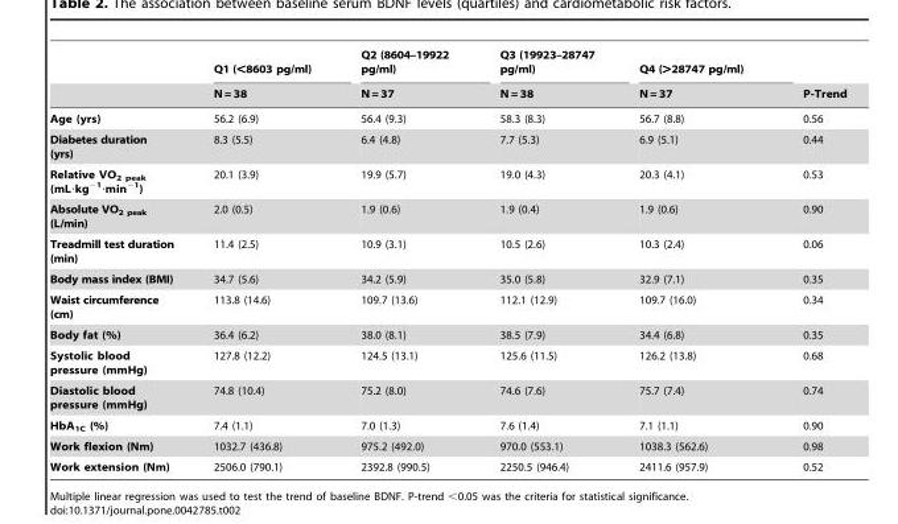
<table><thead><tr><td rowspan="2"></td><td rowspan="2">Q1 (&lt;8603 pg/ml) N = 38</td><td rowspan="2">Q2 (8604–19922 pg/ml) N = 37</td><td rowspan="2">Q3 (19923–28747 pg/ml) N = 38</td><td rowspan="2">Q4 (&gt;28747 pg/ml) N = 37</td><td rowspan="2">P-Trend</td></tr><tr></tr></thead><tbody><tr><td>Age (yrs)</td><td>56.2 (6.9)</td><td>56.4 (9.3)</td><td>58.3 (8.3)</td><td>56.7 (8.8)</td><td>0.56</td></tr><tr><td>Diabetes duration (yrs)</td><td>8.3 (5.5)</td><td>6.4 (4.8)</td><td>7.7 (5.3)</td><td>6.9 (5.1)</td><td>0.44</td></tr><tr><td>Relative VO<sub>2 peak</sub> (mL·kg<sup>−1</sup>·min<sup>−1</sup>)</td><td>20.1 (3.9)</td><td>19.9 (5.7)</td><td>19.0 (4.3)</td><td>20.3 (4.1)</td><td>0.53</td></tr><tr><td>Absolute VO<sub>2 peak</sub> (L/min)</td><td>2.0 (0.5)</td><td>1.9 (0.6)</td><td>1.9 (0.4)</td><td>1.9 (0.6)</td><td>0.90</td></tr><tr><td>Treadmill test duration (min)</td><td>11.4 (2.5)</td><td>10.9 (3.1)</td><td>10.5 (2.6)</td><td>10.3 (2.4)</td><td>0.06</td></tr><tr><td>Body mass index (BMI)</td><td>34.7 (5.6)</td><td>34.2 (5.9)</td><td>35.0 (5.8)</td><td>32.9 (7.1)</td><td>0.35</td></tr><tr><td>Waist circumference (cm)</td><td>113.8 (14.6)</td><td>109.7 (13.6)</td><td>112.1 (12.9)</td><td>109.7 (16.0)</td><td>0.34</td></tr><tr><td>Body fat (%)</td><td>36.4 (6.2)</td><td>38.0 (8.1)</td><td>38.5 (7.9)</td><td>34.4 (6.8)</td><td>0.35</td></tr><tr><td>Systolic blood pressure (mmHg)</td><td>127.8 (12.2)</td><td>124.5 (13.1)</td><td>125.6 (11.5)</td><td>126.2 (13.8)</td><td>0.68</td></tr><tr><td>Diastolic blood pressure (mmHg)</td><td>74.8 (10.4)</td><td>75.2 (8.0)</td><td>74.6 (7.6)</td><td>75.7 (7.4)</td><td>0.74</td></tr><tr><td>HbA<sub>1C</sub> (%)</td><td>7.4 (1.1)</td><td>7.0 (1.3)</td><td>7.6 (1.4)</td><td>7.1 (1.1)</td><td>0.90</td></tr><tr><td>Work flexion (Nm)</td><td>1032.7 (436.8)</td><td>975.2 (492.0)</td><td>970.0 (553.1)</td><td>1038.3 (562.6)</td><td>0.98</td></tr><tr><td>Work extension (Nm)</td><td>2506.0 (790.1)</td><td>2392.8 (990.5)</td><td>2250.5 (946.4)</td><td>2411.6 (957.9)</td><td>0.52</td></tr></tbody></table>